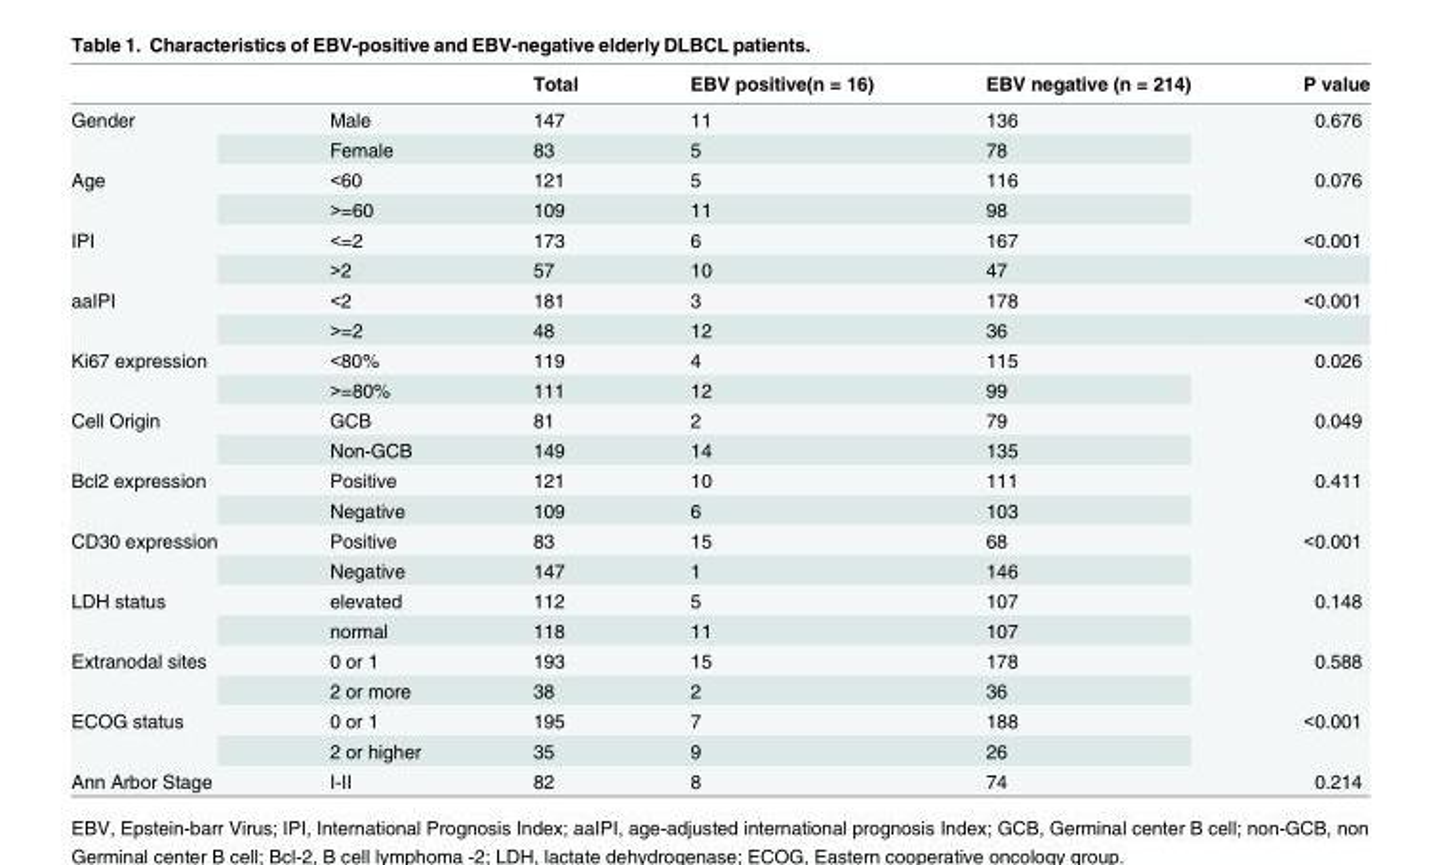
<table><thead><tr><td></td><td></td><td>Total</td><td>EBV positive(n = 16)</td><td>EBV negative (n = 214)</td><td>P value</td></tr></thead><tbody><tr><td rowspan="2">Gender</td><td>Male</td><td>147</td><td>11</td><td>136</td><td rowspan="2">0.676</td></tr><tr><td>Female</td><td>83</td><td>5</td><td>78</td></tr><tr><td rowspan="2">Age</td><td>&lt;60</td><td>121</td><td>5</td><td>116</td><td rowspan="2">0.076</td></tr><tr><td>&gt;=60</td><td>109</td><td>11</td><td>98</td></tr><tr><td rowspan="2">IPI</td><td>&lt;=2</td><td>173</td><td>6</td><td>167</td><td>&lt;0.001</td></tr><tr><td>&gt;2</td><td>57</td><td>10</td><td>47</td><td></td></tr><tr><td rowspan="2">aaIPI</td><td>&lt;2</td><td>181</td><td>3</td><td>178</td><td>&lt;0.001</td></tr><tr><td>&gt;=2</td><td>48</td><td>12</td><td>36</td><td></td></tr><tr><td rowspan="2">Ki67 expression</td><td>&lt;80%</td><td>119</td><td>4</td><td>115</td><td rowspan="2">0.026</td></tr><tr><td>&gt;=80%</td><td>111</td><td>12</td><td>99</td></tr><tr><td rowspan="2">Cell Origin</td><td>GCB</td><td>81</td><td>2</td><td>79</td><td rowspan="2">0.049</td></tr><tr><td>Non-GCB</td><td>149</td><td>14</td><td>135</td></tr><tr><td rowspan="2">Bcl2 expression</td><td>Positive</td><td>121</td><td>10</td><td>111</td><td rowspan="2">0.411</td></tr><tr><td>Negative</td><td>109</td><td>6</td><td>103</td></tr><tr><td rowspan="2">CD30 expression</td><td>Positive</td><td>83</td><td>15</td><td>68</td><td rowspan="2">&lt;0.001</td></tr><tr><td>Negative</td><td>147</td><td>1</td><td>146</td></tr><tr><td rowspan="2">LDH status</td><td>elevated</td><td>112</td><td>5</td><td>107</td><td rowspan="2">0.148</td></tr><tr><td>normal</td><td>118</td><td>11</td><td>107</td></tr><tr><td rowspan="2">Extranodal sites</td><td>0 or 1</td><td>193</td><td>15</td><td>178</td><td rowspan="2">0.588</td></tr><tr><td>2 or more</td><td>38</td><td>2</td><td>36</td></tr><tr><td rowspan="2">ECOG status</td><td>0 or 1</td><td>195</td><td>7</td><td>188</td><td rowspan="2">&lt;0.001</td></tr><tr><td>2 or higher</td><td>35</td><td>9</td><td>26</td></tr><tr><td>Ann Arbor Stage</td><td>I-II</td><td>82</td><td>8</td><td>74</td><td>0.214</td></tr></tbody></table>